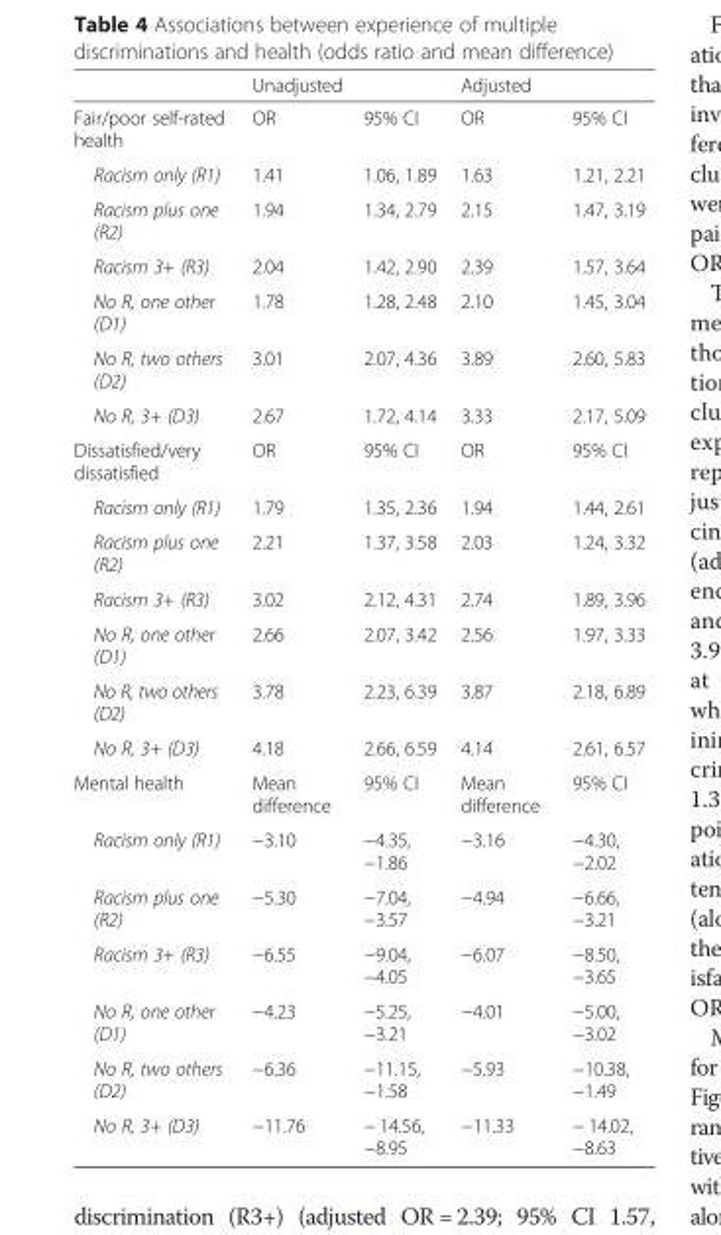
<table><thead><tr><td rowspan="2">Fair/poor self-rated health</td><td colspan="2">Unadjusted</td><td colspan="2">Adjusted</td></tr><tr><td>OR</td><td>95% CI</td><td>OR</td><td>95% CI</td></tr></thead><tbody><tr><td>Racism only (R1)</td><td>1.41</td><td>1.06, 1.89</td><td>1.63</td><td>1.21, 2.21</td></tr><tr><td>Racism plus one (R2)</td><td>1.94</td><td>1.34, 2.79</td><td>2.15</td><td>1.47, 3.19</td></tr><tr><td>Racism 3+ (R3)</td><td>2.04</td><td>1.42, 2.90</td><td>2.39</td><td>1.57, 3.64</td></tr><tr><td>No R, one other (D1)</td><td>1.78</td><td>1.28, 2.48</td><td>2.10</td><td>1.45, 3.04</td></tr><tr><td>No R, two others (D2)</td><td>3.01</td><td>2.07, 4.36</td><td>3.89</td><td>2.60, 5.83</td></tr><tr><td>No R, 3+ (D3)</td><td>2.67</td><td>1.72, 4.14</td><td>3.33</td><td>2.17, 5.09</td></tr><tr><td>Dissatisfied/very dissatisfied</td><td>OR</td><td>95% CI</td><td>OR</td><td>95% CI</td></tr><tr><td>Racism only (R1)</td><td>1.79</td><td>1.35, 2.36</td><td>1.94</td><td>1.44, 2.61</td></tr><tr><td>Racism plus one (R2)</td><td>2.21</td><td>1.37, 3.58</td><td>2.03</td><td>1.24, 3.32</td></tr><tr><td>Racism 3+ (R3)</td><td>3.02</td><td>2.12, 4.31</td><td>2.74</td><td>1.89, 3.96</td></tr><tr><td>No R, one other (D1)</td><td>2.66</td><td>2.07, 3.42</td><td>2.56</td><td>1.97, 3.33</td></tr><tr><td>No R, two others (D2)</td><td>3.78</td><td>2.23, 6.39</td><td>3.87</td><td>2.18, 6.89</td></tr><tr><td>No R, 3+ (D3)</td><td>4.18</td><td>2.66, 6.59</td><td>4.14</td><td>2.61, 6.57</td></tr><tr><td>Mental health</td><td>Mean difference</td><td>95% CI</td><td>Mean difference</td><td>95% CI</td></tr><tr><td>Racism only (R1)</td><td>−3.10</td><td>−4.35, −1.86</td><td>−3.16</td><td>−4.30, −2.02</td></tr><tr><td>Racism plus one (R2)</td><td>−5.30</td><td>−7.04, −3.57</td><td>−4.94</td><td>−6.66, −3.21</td></tr><tr><td>Racism 3+ (R3)</td><td>−6.55</td><td>−9.04, −4.05</td><td>−6.07</td><td>−8.50, −3.65</td></tr><tr><td>No R, one other (D1)</td><td>−4.23</td><td>−5.25, −3.21</td><td>−4.01</td><td>−5.00, −3.02</td></tr><tr><td>No R, two others (D2)</td><td>−6.36</td><td>−11.15, −1.58</td><td>−5.93</td><td>−10.38, −1.49</td></tr><tr><td>No R, 3+ (D3)</td><td>−11.76</td><td>− 14.56, −8.95</td><td>−11.33</td><td>− 14.02, −8.63</td></tr></tbody></table>